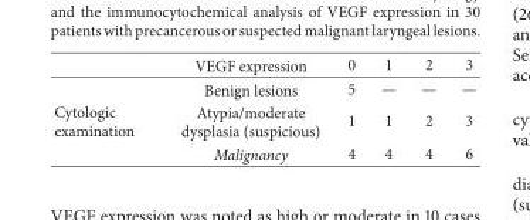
<table><thead><tr><td></td><td>VEGF expression</td><td>0</td><td>1</td><td>2</td><td>3</td></tr></thead><tbody><tr><td rowspan="3">Cytologic examination</td><td>Benign lesions</td><td>5</td><td>—</td><td>—</td><td>—</td></tr><tr><td>Atypia/moderate dysplasia (suspicious)</td><td>1</td><td>1</td><td>2</td><td>3</td></tr><tr><td>Malignancy</td><td>4</td><td>4</td><td>4</td><td>6</td></tr></tbody></table>